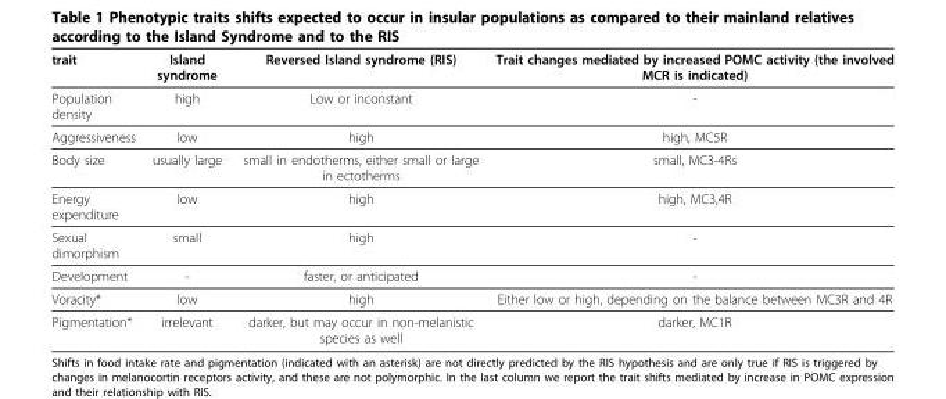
<table><thead><tr><td>trait</td><td>Island syndrome</td><td>Reversed Island syndrome (RIS)</td><td>Trait changes mediated by increased POMC activity (the involved MCR is indicated)</td></tr></thead><tbody><tr><td>Population density</td><td>high</td><td>Low or inconstant</td><td>-</td></tr><tr><td>Aggressiveness</td><td>low</td><td>high</td><td>high, MC5R</td></tr><tr><td>Body size</td><td>usually large</td><td>small in endotherms, either small or large in ectotherms</td><td>small, MC3-4Rs</td></tr><tr><td>Energy expenditure</td><td>low</td><td>high</td><td>high, MC3,4R</td></tr><tr><td>Sexual dimorphism</td><td>small</td><td>high</td><td>-</td></tr><tr><td>Development</td><td>-</td><td>faster, or anticipated</td><td>-</td></tr><tr><td>Voracity*</td><td>low</td><td>high</td><td>Either low or high, depending on the balance between MC3R and 4R</td></tr><tr><td>Pigmentation*</td><td>irrelevant</td><td>darker, but may occur in non-melanistic species as well</td><td>darker, MC1R</td></tr></tbody></table>